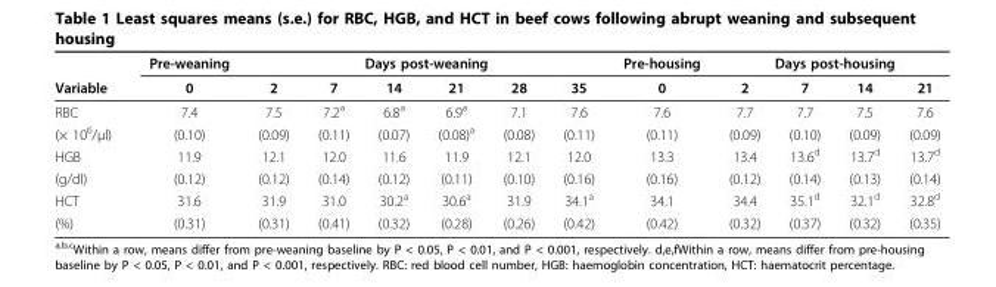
<table><thead><tr><td rowspan="2">Variable</td><td rowspan="2">Pre-weaning 0</td><td colspan="6">Days post-weaning</td><td rowspan="2">Pre-housing 0</td><td colspan="4">Days post-housing</td></tr><tr><td>2</td><td>7</td><td>14</td><td>21</td><td>28</td><td>35</td><td>2</td><td>7</td><td>14</td><td>21</td></tr></thead><tbody><tr><td>RBC</td><td>7.4</td><td>7.5</td><td>7.2<sup>a</sup></td><td>6.8<sup>a</sup></td><td>6.9<sup>a</sup></td><td>7.1</td><td>7.6</td><td>7.6</td><td>7.7</td><td>7.7</td><td>7.5</td><td>7.6</td></tr><tr><td>(× 10<sup>6</sup>/μl)</td><td>(0.10)</td><td>(0.09)</td><td>(0.11)</td><td>(0.07)</td><td>(0.08)<sup>a</sup></td><td>(0.08)</td><td>(0.11)</td><td>(0.11)</td><td>(0.09)</td><td>(0.10)</td><td>(0.09)</td><td>(0.09)</td></tr><tr><td>HGB</td><td>11.9</td><td>12.1</td><td>12.0</td><td>11.6</td><td>11.9</td><td>12.1</td><td>12.0</td><td>13.3</td><td>13.4</td><td>13.6<sup>d</sup></td><td>13.7<sup>d</sup></td><td>13.7<sup>d</sup></td></tr><tr><td>(g/dl)</td><td>(0.12)</td><td>(0.12)</td><td>(0.14)</td><td>(0.12)</td><td>(0.11)</td><td>(0.10)</td><td>(0.16)</td><td>(0.16)</td><td>(0.12)</td><td>(0.14)</td><td>(0.13)</td><td>(0.14)</td></tr><tr><td>HCT</td><td>31.6</td><td>31.9</td><td>31.0</td><td>30.2<sup>a</sup></td><td>30.6<sup>a</sup></td><td>31.9</td><td>34.1<sup>a</sup></td><td>34.1</td><td>34.4</td><td>35.1<sup>d</sup></td><td>32.1<sup>d</sup></td><td>32.8<sup>d</sup></td></tr><tr><td>(%)</td><td>(0.31)</td><td>(0.31)</td><td>(0.41)</td><td>(0.32)</td><td>(0.28)</td><td>(0.26)</td><td>(0.42)</td><td>(0.42)</td><td>(0.32)</td><td>(0.37)</td><td>(0.32)</td><td>(0.35)</td></tr></tbody></table>